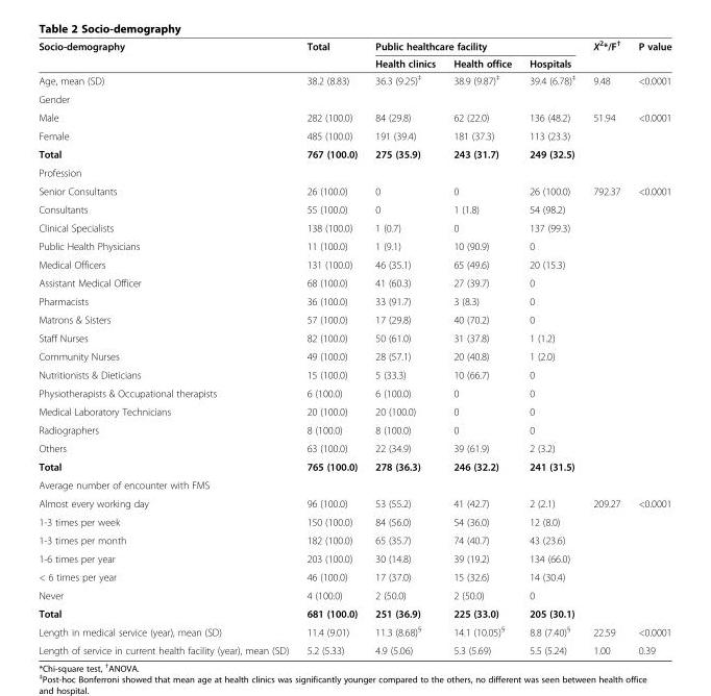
<table><thead><tr><td rowspan="2">Socio-demography</td><td rowspan="2">Total</td><td colspan="3">Public healthcare facility</td><td rowspan="2">X<sup>2</sup>*/F<sup>†</sup></td><td rowspan="2">P value</td></tr><tr><td>Health clinics</td><td>Health office</td><td>Hospitals</td></tr></thead><tbody><tr><td>Age, mean (SD)</td><td>38.2 (8.83)</td><td>36.3 (9.25)<sup>‡</sup></td><td>38.9 (9.87)<sup>‡</sup></td><td>39.4 (6.78)<sup>‡</sup></td><td>9.48</td><td>&lt;0.0001</td></tr><tr><td colspan="7">Gender</td></tr><tr><td>Male</td><td>282 (100.0)</td><td>84 (29.8)</td><td>62 (22.0)</td><td>136 (48.2)</td><td rowspan="2">51.94</td><td rowspan="2">&lt;0.0001</td></tr><tr><td>Female</td><td>485 (100.0)</td><td>191 (39.4)</td><td>181 (37.3)</td><td>113 (23.3)</td></tr><tr><td>Total</td><td>767 (100.0)</td><td>275 (35.9)</td><td>243 (31.7)</td><td>249 (32.5)</td><td></td><td></td></tr><tr><td colspan="7">Profession</td></tr><tr><td>Senior Consultants</td><td>26 (100.0)</td><td>0</td><td>0</td><td>26 (100.0)</td><td rowspan="15">792.37</td><td rowspan="15">&lt;0.0001</td></tr><tr><td>Consultants</td><td>55 (100.0)</td><td>0</td><td>1 (1.8)</td><td>54 (98.2)</td></tr><tr><td>Clinical Specialists</td><td>138 (100.0)</td><td>1 (0.7)</td><td>0</td><td>137 (99.3)</td></tr><tr><td>Public Health Physicians</td><td>11 (100.0)</td><td>1 (9.1)</td><td>10 (90.9)</td><td>0</td></tr><tr><td>Medical Officers</td><td>131 (100.0)</td><td>46 (35.1)</td><td>65 (49.6)</td><td>20 (15.3)</td></tr><tr><td>Assistant Medical Officer</td><td>68 (100.0)</td><td>41 (60.3)</td><td>27 (39.7)</td><td>0</td></tr><tr><td>Pharmacists</td><td>36 (100.0)</td><td>33 (91.7)</td><td>3 (8.3)</td><td>0</td></tr><tr><td>Matrons &amp; Sisters</td><td>57 (100.0)</td><td>17 (29.8)</td><td>40 (70.2)</td><td>0</td></tr><tr><td>Staff Nurses</td><td>82 (100.0)</td><td>50 (61.0)</td><td>31 (37.8)</td><td>1 (1.2)</td></tr><tr><td>Community Nurses</td><td>49 (100.0)</td><td>28 (57.1)</td><td>20 (40.8)</td><td>1 (2.0)</td></tr><tr><td>Nutritionists &amp; Dieticians</td><td>15 (100.0)</td><td>5 (33.3)</td><td>10 (66.7)</td><td>0</td></tr><tr><td>Physiotherapists &amp; Occupational therapists</td><td>6 (100.0)</td><td>6 (100.0)</td><td>0</td><td>0</td></tr><tr><td>Medical Laboratory Technicians</td><td>20 (100.0)</td><td>20 (100.0)</td><td>0</td><td>0</td></tr><tr><td>Radiographers</td><td>8 (100.0)</td><td>8 (100.0)</td><td>0</td><td>0</td></tr><tr><td>Others</td><td>63 (100.0)</td><td>22 (34.9)</td><td>39 (61.9)</td><td>2 (3.2)</td></tr><tr><td>Total</td><td>765 (100.0)</td><td>278 (36.3)</td><td>246 (32.2)</td><td>241 (31.5)</td><td></td><td></td></tr><tr><td colspan="7">Average number of encounter with FMS</td></tr><tr><td>Almost every working day</td><td>96 (100.0)</td><td>53 (55.2)</td><td>41 (42.7)</td><td>2 (2.1)</td><td rowspan="6">209.27</td><td rowspan="6">&lt;0.0001</td></tr><tr><td>1-3 times per week</td><td>150 (100.0)</td><td>84 (56.0)</td><td>54 (36.0)</td><td>12 (8.0)</td></tr><tr><td>1-3 times per month</td><td>182 (100.0)</td><td>65 (35.7)</td><td>74 (40.7)</td><td>43 (23.6)</td></tr><tr><td>1-6 times per year</td><td>203 (100.0)</td><td>30 (14.8)</td><td>39 (19.2)</td><td>134 (66.0)</td></tr><tr><td>&lt; 6 times per year</td><td>46 (100.0)</td><td>17 (37.0)</td><td>15 (32.6)</td><td>14 (30.4)</td></tr><tr><td>Never</td><td>4 (100.0)</td><td>2 (50.0)</td><td>2 (50.0)</td><td>0</td></tr><tr><td>Total</td><td>681 (100.0)</td><td>251 (36.9)</td><td>225 (33.0)</td><td>205 (30.1)</td><td></td><td></td></tr><tr><td>Length in medical service (year), mean (SD)</td><td>11.4 (9.01)</td><td>11.3 (8.68)<sup>§</sup></td><td>14.1 (10.05)<sup>§</sup></td><td>8.8 (7.40)<sup>§</sup></td><td>22.59</td><td>&lt;0.0001</td></tr><tr><td>Length of service in current health facility (year), mean (SD)</td><td>5.2 (5.33)</td><td>4.9 (5.06)</td><td>5.3 (5.69)</td><td>5.5 (5.24)</td><td>1.00</td><td>0.39</td></tr></tbody></table>